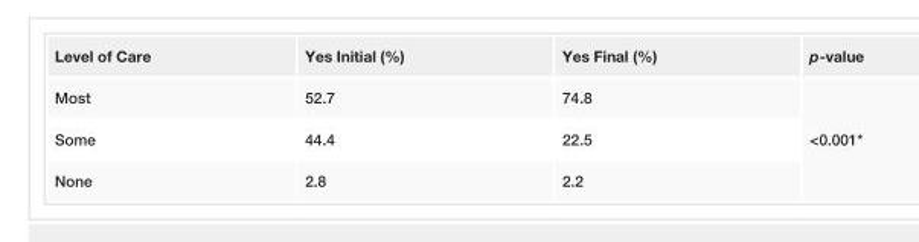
<table><tbody><tr><td>Level of Care</td><td>Yes Initial (%)</td><td>Yes Final (%)</td><td>p-value</td></tr><tr><td>Most</td><td>52.7</td><td>74.8</td><td rowspan="3">&lt;0.001*</td></tr><tr><td>Some</td><td>44.4</td><td>22.5</td></tr><tr><td>None</td><td>2.8</td><td>2.2</td></tr></tbody></table>